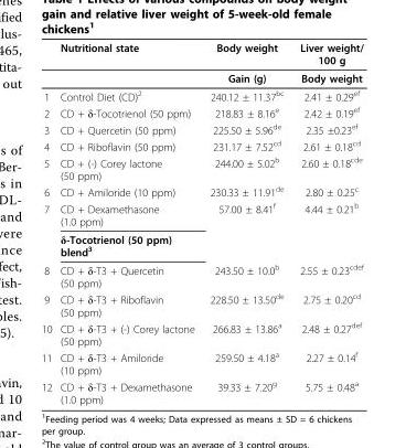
<table><thead><tr><td></td><td>Nutritional state</td><td>Body weight</td><td>Liver weight/ 100 g</td></tr></thead><tbody><tr><td></td><td></td><td>Gain (g)</td><td>Body weight</td></tr><tr><td>1</td><td>Control Diet (CD)<sup>2</sup></td><td>240.12 ± 11.37<sup>bc</sup></td><td>2.41 ± 0.29<sup>ef</sup></td></tr><tr><td>2</td><td>CD + δ-Tocotrienol (50 ppm)</td><td>218.83 ± 8.16<sup>e</sup></td><td>2.42 ± 0.19<sup>ef</sup></td></tr><tr><td>3</td><td>CD + Quercetin (50 ppm)</td><td>225.50 ± 5.96<sup>de</sup></td><td>2.35 ±0.23<sup>ef</sup></td></tr><tr><td>4</td><td>CD + Riboflavin (50 ppm)</td><td>231.17 ± 7.52<sup>cd</sup></td><td>2.61 ± 0.18<sup>cd</sup></td></tr><tr><td>5</td><td>CD + (-) Corey lactone (50 ppm)</td><td>244.00 ± 5.02<sup>b</sup></td><td>2.60 ± 0.18<sup>cde</sup></td></tr><tr><td>6</td><td>CD + Amiloride (10 ppm)</td><td>230.33 ± 11.91<sup>de</sup></td><td>2.80 ± 0.25<sup>c</sup></td></tr><tr><td rowspan="2">7</td><td>CD + Dexamethasone (1.0 ppm)</td><td>57.00 ± 8.41<sup>f</sup></td><td>4.44 ± 0.21<sup>b</sup></td></tr><tr><td>δ-Tocotrienol (50 ppm) blend<sup>3</sup></td><td></td><td></td></tr><tr><td>8</td><td>CD + δ-T3 + Quercetin (50 ppm)</td><td>243.50 ± 10.0<sup>b</sup></td><td>2.55 ± 0.23<sup>cdef</sup></td></tr><tr><td>9</td><td>CD + δ-T3 + Riboflavin (50 ppm)</td><td>228.50 ± 13.50<sup>de</sup></td><td>2.75 ± 0.20<sup>cd</sup></td></tr><tr><td>10</td><td>CD + δ-T3 + (-) Corey lactone (50 ppm)</td><td>266.83 ± 13.86<sup>a</sup></td><td>2.48 ± 0.27<sup>def</sup></td></tr><tr><td>11</td><td>CD + δ-T3 + Amiloride (10 ppm)</td><td>259.50 ± 4.18<sup>a</sup></td><td>2.27 ± 0.14<sup>f</sup></td></tr><tr><td>12</td><td>CD + δ-T3 + Dexamethasone (1.0 ppm)</td><td>39.33 ± 7.20<sup>g</sup></td><td>5.75 ± 0.48<sup>a</sup></td></tr></tbody></table>